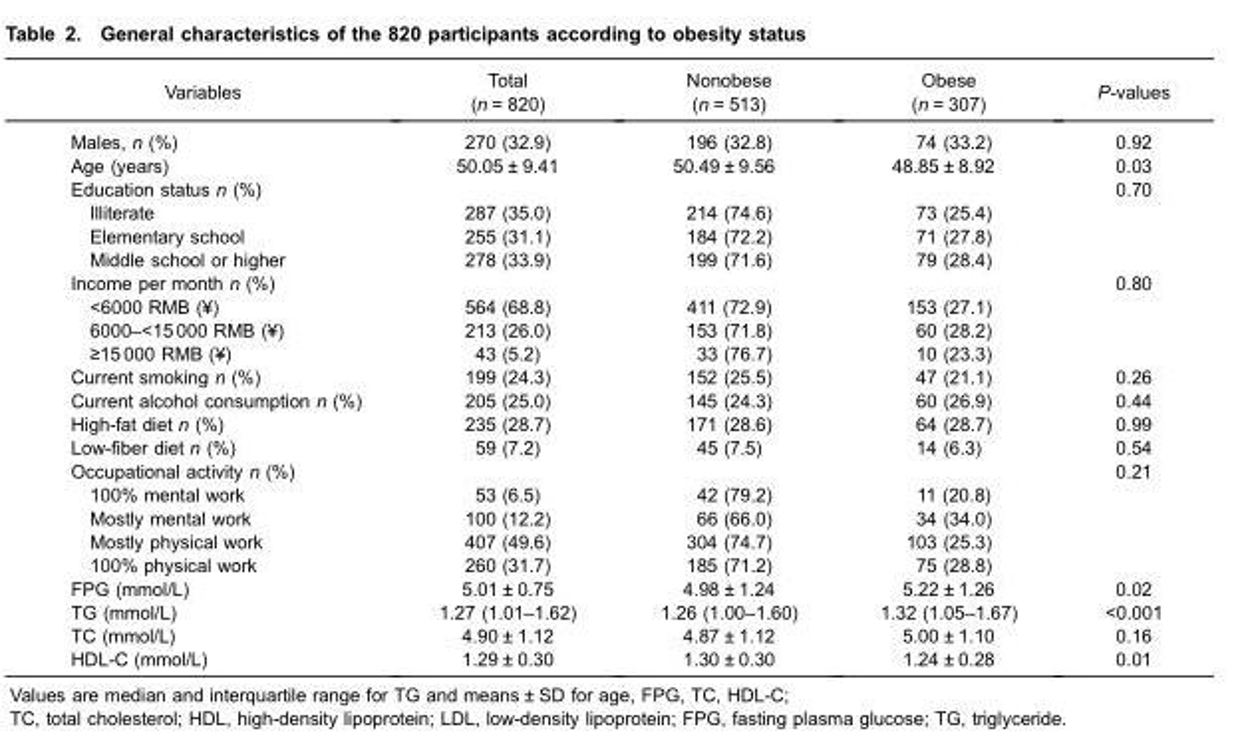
<table><thead><tr><td>Variables</td><td>Total (n = 820)</td><td>Nonobese (n = 513)</td><td>Obese (n = 307)</td><td>P-values</td></tr></thead><tbody><tr><td>Males, n (%)</td><td>270 (32.9)</td><td>196 (32.8)</td><td>74 (33.2)</td><td>0.92</td></tr><tr><td>Age (years)</td><td>50.05 ± 9.41</td><td>50.49 ± 9.56</td><td>48.85 ± 8.92</td><td>0.03</td></tr><tr><td>Education status n (%)</td><td></td><td></td><td></td><td>0.70</td></tr><tr><td>Illiterate</td><td>287 (35.0)</td><td>214 (74.6)</td><td>73 (25.4)</td><td></td></tr><tr><td>Elementary school</td><td>255 (31.1)</td><td>184 (72.2)</td><td>71 (27.8)</td><td></td></tr><tr><td>Middle school or higher</td><td>278 (33.9)</td><td>199 (71.6)</td><td>79 (28.4)</td><td></td></tr><tr><td>Income per month n (%)</td><td></td><td></td><td></td><td>0.80</td></tr><tr><td>&lt;6000 RMB (¥)</td><td>564 (68.8)</td><td>411 (72.9)</td><td>153 (27.1)</td><td></td></tr><tr><td>6000–&lt;15 000 RMB (¥)</td><td>213 (26.0)</td><td>153 (71.8)</td><td>60 (28.2)</td><td></td></tr><tr><td>≥15 000 RMB (¥)</td><td>43 (5.2)</td><td>33 (76.7)</td><td>10 (23.3)</td><td></td></tr><tr><td>Current smoking n (%)</td><td>199 (24.3)</td><td>152 (25.5)</td><td>47 (21.1)</td><td>0.26</td></tr><tr><td>Current alcohol consumption n (%)</td><td>205 (25.0)</td><td>145 (24.3)</td><td>60 (26.9)</td><td>0.44</td></tr><tr><td>High-fat diet n (%)</td><td>235 (28.7)</td><td>171 (28.6)</td><td>64 (28.7)</td><td>0.99</td></tr><tr><td>Low-fiber diet n (%)</td><td>59 (7.2)</td><td>45 (7.5)</td><td>14 (6.3)</td><td>0.54</td></tr><tr><td>Occupational activity n (%)</td><td></td><td></td><td></td><td>0.21</td></tr><tr><td>100% mental work</td><td>53 (6.5)</td><td>42 (79.2)</td><td>11 (20.8)</td><td></td></tr><tr><td>Mostly mental work</td><td>100 (12.2)</td><td>66 (66.0)</td><td>34 (34.0)</td><td></td></tr><tr><td>Mostly physical work</td><td>407 (49.6)</td><td>304 (74.7)</td><td>103 (25.3)</td><td></td></tr><tr><td>100% physical work</td><td>260 (31.7)</td><td>185 (71.2)</td><td>75 (28.8)</td><td></td></tr><tr><td>FPG (mmol/L)</td><td>5.01 ± 0.75</td><td>4.98 ± 1.24</td><td>5.22 ± 1.26</td><td>0.02</td></tr><tr><td>TG (mmol/L)</td><td>1.27 (1.01–1.62)</td><td>1.26 (1.00–1.60)</td><td>1.32 (1.05–1.67)</td><td>&lt;0.001</td></tr><tr><td>TC (mmol/L)</td><td>4.90 ± 1.12</td><td>4.87 ± 1.12</td><td>5.00 ± 1.10</td><td>0.16</td></tr><tr><td>HDL-C (mmol/L)</td><td>1.29 ± 0.30</td><td>1.30 ± 0.30</td><td>1.24 ± 0.28</td><td>0.01</td></tr></tbody></table>